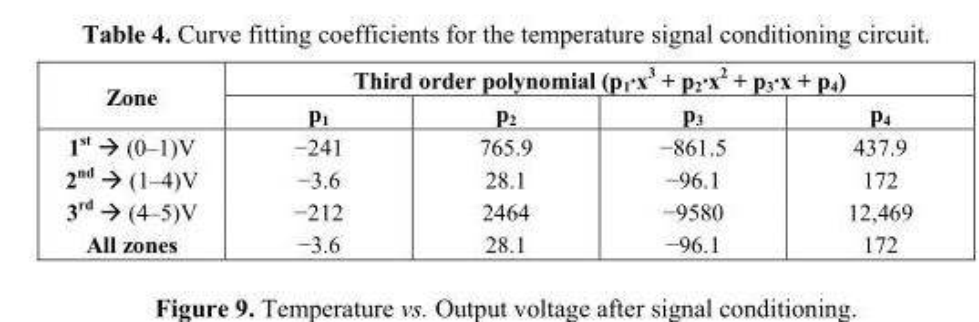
<table><thead><tr><td rowspan="2">Zone</td><td colspan="4">Third order polynomial (p<sub>1</sub>·x<sup>3</sup> + p<sub>2</sub>·x<sup>2</sup> + p<sub>3</sub>·x + p<sub>4</sub>)</td></tr><tr><td>p<sub>1</sub></td><td>p<sub>2</sub></td><td>p<sub>3</sub></td><td>p<sub>4</sub></td></tr></thead><tbody><tr><td>1<sup>st</sup> → (0–1)V</td><td>−241</td><td>765.9</td><td>−861.5</td><td>437.9</td></tr><tr><td>2<sup>nd</sup> → (1–4)V</td><td>−3.6</td><td>28.1</td><td>−96.1</td><td>172</td></tr><tr><td>3<sup>rd</sup> → (4–5)V</td><td>−212</td><td>2464</td><td>−9580</td><td>12,469</td></tr><tr><td>All zones</td><td>−3.6</td><td>28.1</td><td>−96.1</td><td>172</td></tr></tbody></table>